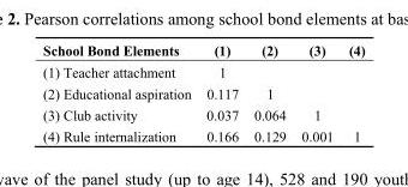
<table><thead><tr><td>School Bond Elements</td><td>(1)</td><td>(2)</td><td>(3)</td><td>(4)</td></tr></thead><tbody><tr><td>(1) Teacher attachment</td><td>1</td><td></td><td></td><td></td></tr><tr><td>(2) Educational aspiration</td><td>0.117</td><td>1</td><td></td><td></td></tr><tr><td>(3) Club activity</td><td>0.037</td><td>0.064</td><td>1</td><td></td></tr><tr><td>(4) Rule internalization</td><td>0.166</td><td>0.129</td><td>0.001</td><td>1</td></tr></tbody></table>